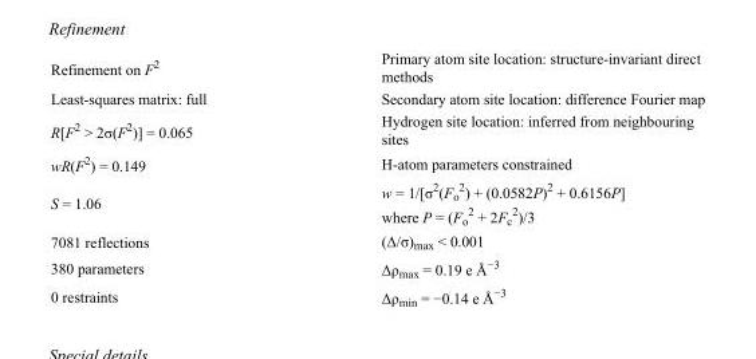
<table><tbody><tr><td>Refinement on F<sup>2</sup></td><td>Primary atom site location: structure-invariant direct methods</td></tr><tr><td>Least-squares matrix: full</td><td>Secondary atom site location: difference Fourier map</td></tr><tr><td>R[F<sup>2</sup> &gt; 2σ(F<sup>2</sup>)] = 0.065</td><td>Hydrogen site location: inferred from neighbouring sites</td></tr><tr><td>wR(F<sup>2</sup>) = 0.149</td><td>H-atom parameters constrained</td></tr><tr><td>S = 1.06</td><td>w = 1/[σ<sup>2</sup>(F<sub>o</sub> <sup>2</sup>) + (0.0582P)<sup>2</sup> + 0.6156P] where P = (F<sub>o</sub> <sup>2</sup> + 2F<sub>c</sub> <sup>2</sup>)/3</td></tr><tr><td>7081 reflections</td><td>(Δ/σ)<sub>max</sub> &lt; 0.001</td></tr><tr><td>380 parameters</td><td>Δρ<sub>max</sub> = 0.19 e Å<sup>−3</sup></td></tr><tr><td>0 restraints</td><td>Δρ<sub>min</sub> = −0.14 e Å<sup>−3</sup></td></tr></tbody></table>